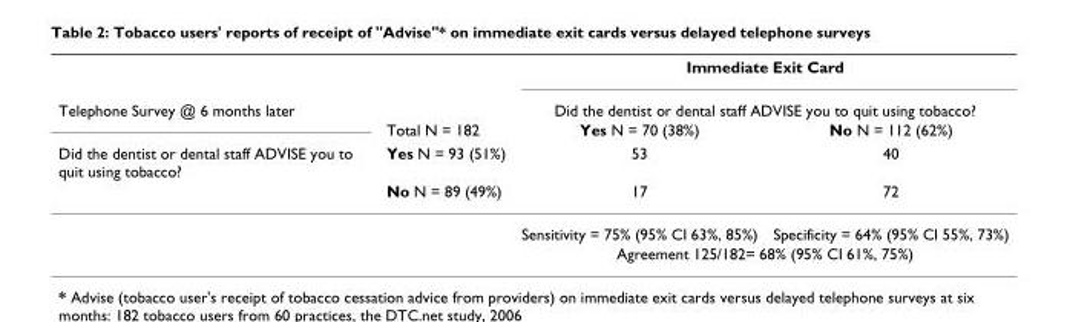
<table><thead><tr><td rowspan="5">Telephone Survey @ 6 months later Did the dentist or dental staff ADVISE you to quit using tobacco?</td><td rowspan="5">Total N = 182 Yes N = 93 (51%) No N = 89 (49%)</td><td rowspan="2" colspan="2">Immediate Exit Card Did the dentist or dental staff ADVISE you to quit using tobacco?</td></tr><tr></tr><tr><td rowspan="3">Yes N = 70 (38%) 53 17</td><td rowspan="3">No N = 112 (62%) 40 72</td></tr><tr></tr><tr></tr></thead><tbody><tr><td></td><td></td><td>Sensitivity = 75% (95% CI 63%, 85%)</td><td>Specificity = 64% (95% CI 55%, 73%)</td></tr><tr><td></td><td></td><td colspan="2">Agreement 125/182= 68% (95% CI 61%, 75%)</td></tr></tbody></table>